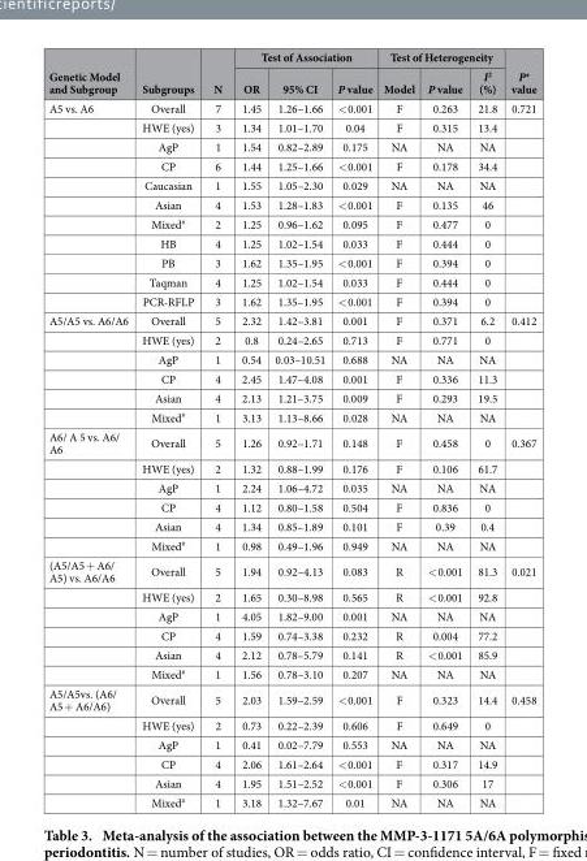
<table><thead><tr><td rowspan="2">Genetic Model and Subgroup</td><td rowspan="2">Subgroups</td><td rowspan="2">N</td><td colspan="3">Test of Association</td><td colspan="3">Test of Heterogeneity</td><td rowspan="2">P* value</td></tr><tr><td>OR</td><td>95% CI</td><td>P value</td><td>Model</td><td>P value</td><td>I<sup>2</sup> (%)</td></tr></thead><tbody><tr><td rowspan="11">A5 vs. A6</td><td>Overall</td><td>7</td><td>1.45</td><td>1.26–1.66</td><td>&lt; 0.001</td><td>F</td><td>0.263</td><td>21.8</td><td>0.721</td></tr><tr><td>HWE (yes)</td><td>3</td><td>1.34</td><td>1.01–1.70</td><td>0.04</td><td>F</td><td>0.315</td><td>13.4</td><td></td></tr><tr><td>AgP</td><td>1</td><td>1.54</td><td>0.82–2.89</td><td>0.175</td><td>NA</td><td>NA</td><td>NA</td><td></td></tr><tr><td>CP</td><td>6</td><td>1.44</td><td>1.25–1.66</td><td>&lt; 0.001</td><td>F</td><td>0.178</td><td>34.4</td><td></td></tr><tr><td>Caucasian</td><td>1</td><td>1.55</td><td>1.05–2.30</td><td>0.029</td><td>NA</td><td>NA</td><td>NA</td><td></td></tr><tr><td>Asian</td><td>4</td><td>1.53</td><td>1.28–1.83</td><td>&lt; 0.001</td><td>F</td><td>0.135</td><td>46</td><td></td></tr><tr><td>Mixed<sup>#</sup></td><td>2</td><td>1.25</td><td>0.96–1.62</td><td>0.095</td><td>F</td><td>0.477</td><td>0</td><td></td></tr><tr><td>HB</td><td>4</td><td>1.25</td><td>1.02–1.54</td><td>0.033</td><td>F</td><td>0.444</td><td>0</td><td></td></tr><tr><td>PB</td><td>3</td><td>1.62</td><td>1.35–1.95</td><td>&lt; 0.001</td><td>F</td><td>0.394</td><td>0</td><td></td></tr><tr><td>Taqman</td><td>4</td><td>1.25</td><td>1.02–1.54</td><td>0.033</td><td>F</td><td>0.444</td><td>0</td><td></td></tr><tr><td>PCR-RFLP</td><td>3</td><td>1.62</td><td>1.35–1.95</td><td>&lt; 0.001</td><td>F</td><td>0.394</td><td>0</td><td></td></tr><tr><td rowspan="6">A5/A5 vs. A6/A6</td><td>Overall</td><td>5</td><td>2.32</td><td>1.42–3.81</td><td>0.001</td><td>F</td><td>0.371</td><td>6.2</td><td>0.412</td></tr><tr><td>HWE (yes)</td><td>2</td><td>0.8</td><td>0.24–2.65</td><td>0.713</td><td>F</td><td>0.771</td><td>0</td><td></td></tr><tr><td>AgP</td><td>1</td><td>0.54</td><td>0.03–10.51</td><td>0.688</td><td>NA</td><td>NA</td><td>NA</td><td></td></tr><tr><td>CP</td><td>4</td><td>2.45</td><td>1.47–4.08</td><td>0.001</td><td>F</td><td>0.336</td><td>11.3</td><td></td></tr><tr><td>Asian</td><td>4</td><td>2.13</td><td>1.21–3.75</td><td>0.009</td><td>F</td><td>0.293</td><td>19.5</td><td></td></tr><tr><td>Mixed<sup>#</sup></td><td>1</td><td>3.13</td><td>1.13–8.66</td><td>0.028</td><td>NA</td><td>NA</td><td>NA</td><td></td></tr><tr><td rowspan="6">A6/ A 5 vs. A6/ A6</td><td>Overall</td><td>5</td><td>1.26</td><td>0.92–1.71</td><td>0.148</td><td>F</td><td>0.458</td><td>0</td><td>0.367</td></tr><tr><td>HWE (yes)</td><td>2</td><td>1.32</td><td>0.88–1.99</td><td>0.176</td><td>F</td><td>0.106</td><td>61.7</td><td></td></tr><tr><td>AgP</td><td>1</td><td>2.24</td><td>1.06–4.72</td><td>0.035</td><td>NA</td><td>NA</td><td>NA</td><td></td></tr><tr><td>CP</td><td>4</td><td>1.12</td><td>0.80–1.58</td><td>0.504</td><td>F</td><td>0.836</td><td>0</td><td></td></tr><tr><td>Asian</td><td>4</td><td>1.34</td><td>0.85–1.89</td><td>0.101</td><td>F</td><td>0.39</td><td>0.4</td><td></td></tr><tr><td>Mixed<sup>#</sup></td><td>1</td><td>0.98</td><td>0.49–1.96</td><td>0.949</td><td>NA</td><td>NA</td><td>NA</td><td></td></tr><tr><td rowspan="6">(A5/A5 + A6/ A5) vs. A6/A6</td><td>Overall</td><td>5</td><td>1.94</td><td>0.92–4.13</td><td>0.083</td><td>R</td><td>&lt; 0.001</td><td>81.3</td><td>0.021</td></tr><tr><td>HWE (yes)</td><td>2</td><td>1.65</td><td>0.30–8.98</td><td>0.565</td><td>R</td><td>&lt; 0.001</td><td>92.8</td><td></td></tr><tr><td>AgP</td><td>1</td><td>4.05</td><td>1.82–9.00</td><td>0.001</td><td>NA</td><td>NA</td><td>NA</td><td></td></tr><tr><td>CP</td><td>4</td><td>1.59</td><td>0.74–3.38</td><td>0.232</td><td>R</td><td>0.004</td><td>77.2</td><td></td></tr><tr><td>Asian</td><td>4</td><td>2.12</td><td>0.78–5.79</td><td>0.141</td><td>R</td><td>&lt; 0.001</td><td>85.9</td><td></td></tr><tr><td>Mixed<sup>#</sup></td><td>1</td><td>1.56</td><td>0.78–3.10</td><td>0.207</td><td>NA</td><td>NA</td><td>NA</td><td></td></tr><tr><td rowspan="6">A5/A5vs. (A6/ A5 + A6/A6)</td><td>Overall</td><td>5</td><td>2.03</td><td>1.59–2.59</td><td>&lt; 0.001</td><td>F</td><td>0.323</td><td>14.4</td><td>0.458</td></tr><tr><td>HWE (yes)</td><td>2</td><td>0.73</td><td>0.22–2.39</td><td>0.606</td><td>F</td><td>0.649</td><td>0</td><td></td></tr><tr><td>AgP</td><td>1</td><td>0.41</td><td>0.02–7.79</td><td>0.553</td><td>NA</td><td>NA</td><td>NA</td><td></td></tr><tr><td>CP</td><td>4</td><td>2.06</td><td>1.61–2.64</td><td>&lt; 0.001</td><td>F</td><td>0.317</td><td>14.9</td><td></td></tr><tr><td>Asian</td><td>4</td><td>1.95</td><td>1.51–2.52</td><td>&lt; 0.001</td><td>F</td><td>0.306</td><td>17</td><td></td></tr><tr><td>Mixed<sup>#</sup></td><td>1</td><td>3.18</td><td>1.32–7.67</td><td>0.01</td><td>NA</td><td>NA</td><td>NA</td><td></td></tr></tbody></table>